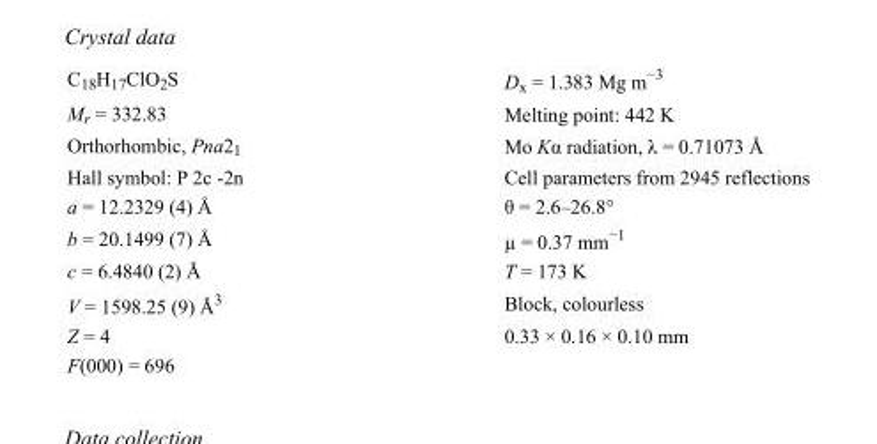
<table><tbody><tr><td>C<sub>18</sub>H<sub>17</sub>ClO<sub>2</sub>S</td><td>D<sub>x</sub> = 1.383 Mg m<sup>−3</sup></td></tr><tr><td>M<sub>r</sub> = 332.83</td><td>Melting point: 442 K</td></tr><tr><td>Orthorhombic, Pna2<sub>1</sub></td><td>Mo Kα radiation, λ = 0.71073 Å</td></tr><tr><td>Hall symbol: P 2c -2n</td><td>Cell parameters from 2945 reflections</td></tr><tr><td>a = 12.2329 (4) Å</td><td>θ = 2.6–26.8°</td></tr><tr><td>b = 20.1499 (7) Å</td><td>µ = 0.37 mm<sup>−1</sup></td></tr><tr><td>c = 6.4840 (2) Å</td><td>T = 173 K</td></tr><tr><td>V = 1598.25 (9) Å<sup>3</sup></td><td>Block, colourless</td></tr><tr><td>Z = 4</td><td>0.33 × 0.16 × 0.10 mm</td></tr><tr><td>F(000) = 696</td><td></td></tr></tbody></table>